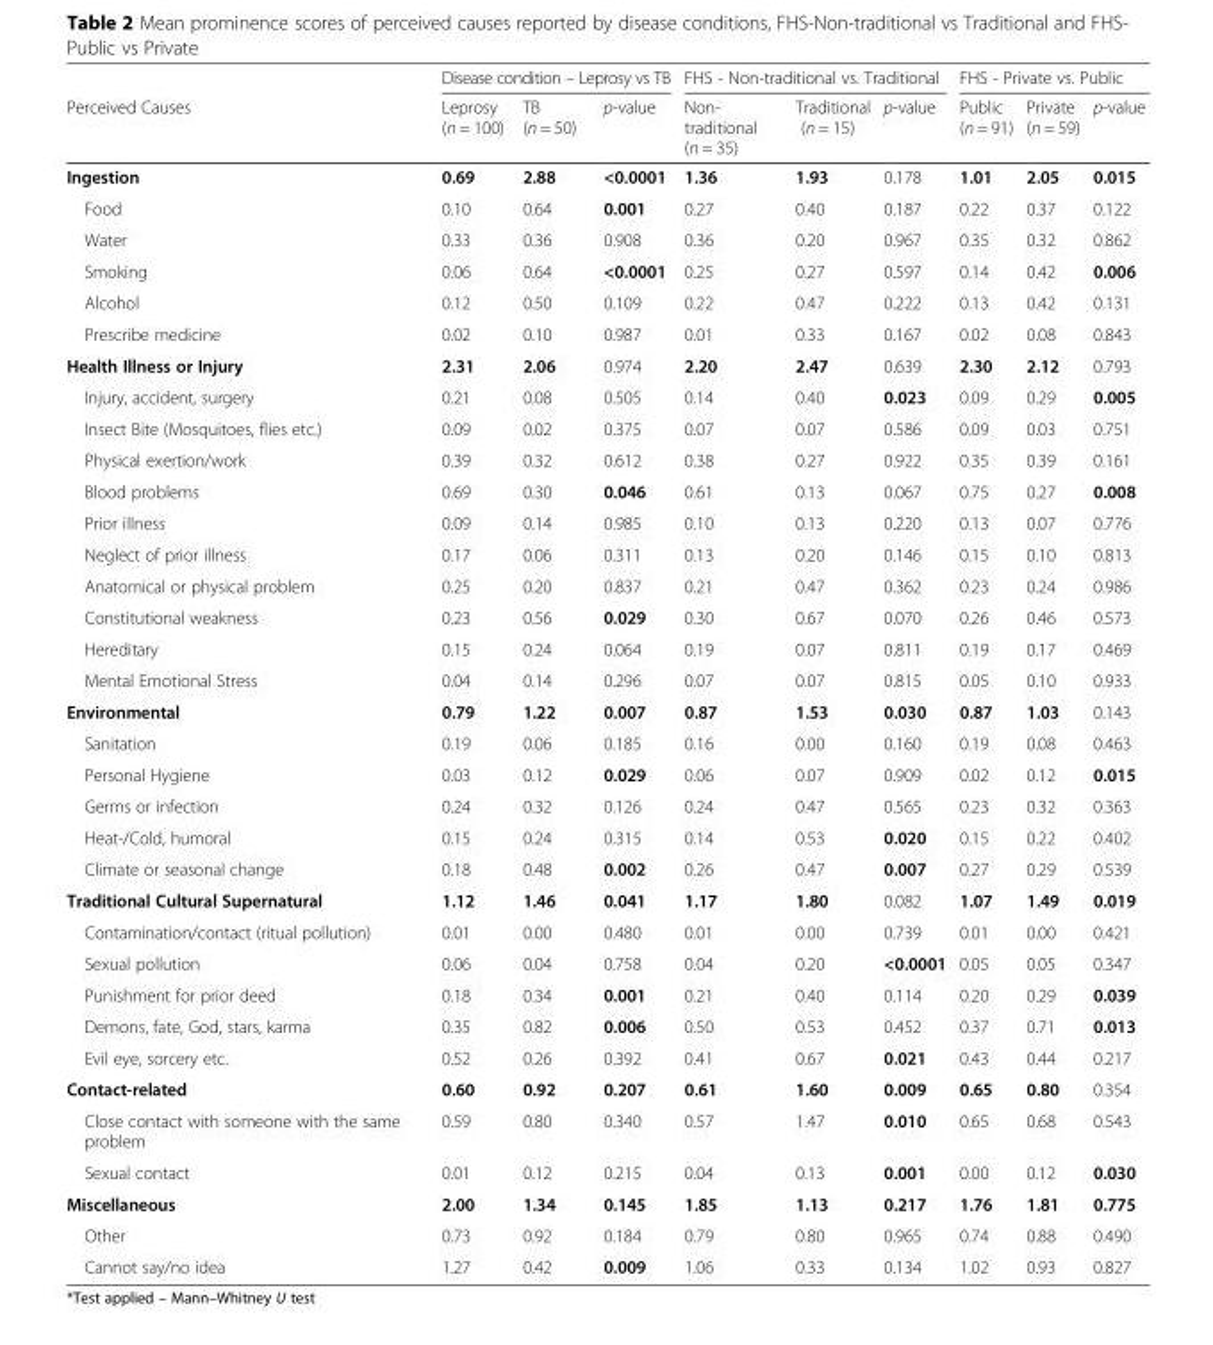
<table><thead><tr><td rowspan="2">Perceived Causes</td><td colspan="3">Disease condition – Leprosy vs TB</td><td colspan="3">FHS - Non-traditional vs. Traditional</td><td colspan="3">FHS - Private vs. Public</td></tr><tr><td>Leprosy (n = 100)</td><td>TB (n = 50)</td><td>p-value</td><td>Non- traditional (n = 35)</td><td>Traditional (n = 15)</td><td>p-value</td><td>Public (n = 91)</td><td>Private (n = 59)</td><td>p-value</td></tr></thead><tbody><tr><td>Ingestion</td><td>0.69</td><td>2.88</td><td>&lt;0.0001</td><td>1.36</td><td>1.93</td><td>0.178</td><td>1.01</td><td>2.05</td><td>0.015</td></tr><tr><td>Food</td><td>0.10</td><td>0.64</td><td>0.001</td><td>0.27</td><td>0.40</td><td>0.187</td><td>0.22</td><td>0.37</td><td>0.122</td></tr><tr><td>Water</td><td>0.33</td><td>0.36</td><td>0.908</td><td>0.36</td><td>0.20</td><td>0.967</td><td>0.35</td><td>0.32</td><td>0.862</td></tr><tr><td>Smoking</td><td>0.06</td><td>0.64</td><td>&lt;0.0001</td><td>0.25</td><td>0.27</td><td>0.597</td><td>0.14</td><td>0.42</td><td>0.006</td></tr><tr><td>Alcohol</td><td>0.12</td><td>0.50</td><td>0.109</td><td>0.22</td><td>0.47</td><td>0.222</td><td>0.13</td><td>0.42</td><td>0.131</td></tr><tr><td>Prescribe medicine</td><td>0.02</td><td>0.10</td><td>0.987</td><td>0.01</td><td>0.33</td><td>0.167</td><td>0.02</td><td>0.08</td><td>0.843</td></tr><tr><td>Health Illness or Injury</td><td>2.31</td><td>2.06</td><td>0.974</td><td>2.20</td><td>2.47</td><td>0.639</td><td>2.30</td><td>2.12</td><td>0.793</td></tr><tr><td>Injury, accident, surgery</td><td>0.21</td><td>0.08</td><td>0.505</td><td>0.14</td><td>0.40</td><td>0.023</td><td>0.09</td><td>0.29</td><td>0.005</td></tr><tr><td>Insect Bite (Mosquitoes, flies etc.)</td><td>0.09</td><td>0.02</td><td>0.375</td><td>0.07</td><td>0.07</td><td>0.586</td><td>0.09</td><td>0.03</td><td>0.751</td></tr><tr><td>Physical exertion/work</td><td>0.39</td><td>0.32</td><td>0.612</td><td>0.38</td><td>0.27</td><td>0.922</td><td>0.35</td><td>0.39</td><td>0.161</td></tr><tr><td>Blood problems</td><td>0.69</td><td>0.30</td><td>0.046</td><td>0.61</td><td>0.13</td><td>0.067</td><td>0.75</td><td>0.27</td><td>0.008</td></tr><tr><td>Prior illness</td><td>0.09</td><td>0.14</td><td>0.985</td><td>0.10</td><td>0.13</td><td>0.220</td><td>0.13</td><td>0.07</td><td>0.776</td></tr><tr><td>Neglect of prior illness</td><td>0.17</td><td>0.06</td><td>0.311</td><td>0.13</td><td>0.20</td><td>0.146</td><td>0.15</td><td>0.10</td><td>0.813</td></tr><tr><td>Anatomical or physical problem</td><td>0.25</td><td>0.20</td><td>0.837</td><td>0.21</td><td>0.47</td><td>0.362</td><td>0.23</td><td>0.24</td><td>0.986</td></tr><tr><td>Constitutional weakness</td><td>0.23</td><td>0.56</td><td>0.029</td><td>0.30</td><td>0.67</td><td>0.070</td><td>0.26</td><td>0.46</td><td>0.573</td></tr><tr><td>Hereditary</td><td>0.15</td><td>0.24</td><td>0.064</td><td>0.19</td><td>0.07</td><td>0.811</td><td>0.19</td><td>0.17</td><td>0.469</td></tr><tr><td>Mental Emotional Stress</td><td>0.04</td><td>0.14</td><td>0.296</td><td>0.07</td><td>0.07</td><td>0.815</td><td>0.05</td><td>0.10</td><td>0.933</td></tr><tr><td>Environmental</td><td>0.79</td><td>1.22</td><td>0.007</td><td>0.87</td><td>1.53</td><td>0.030</td><td>0.87</td><td>1.03</td><td>0.143</td></tr><tr><td>Sanitation</td><td>0.19</td><td>0.06</td><td>0.185</td><td>0.16</td><td>0.00</td><td>0.160</td><td>0.19</td><td>0.08</td><td>0.463</td></tr><tr><td>Personal Hygiene</td><td>0.03</td><td>0.12</td><td>0.029</td><td>0.06</td><td>0.07</td><td>0.909</td><td>0.02</td><td>0.12</td><td>0.015</td></tr><tr><td>Germs or infection</td><td>0.24</td><td>0.32</td><td>0.126</td><td>0.24</td><td>0.47</td><td>0.565</td><td>0.23</td><td>0.32</td><td>0.363</td></tr><tr><td>Heat-/Cold, humoral</td><td>0.15</td><td>0.24</td><td>0.315</td><td>0.14</td><td>0.53</td><td>0.020</td><td>0.15</td><td>0.22</td><td>0.402</td></tr><tr><td>Climate or seasonal change</td><td>0.18</td><td>0.48</td><td>0.002</td><td>0.26</td><td>0.47</td><td>0.007</td><td>0.27</td><td>0.29</td><td>0.539</td></tr><tr><td>Traditional Cultural Supernatural</td><td>1.12</td><td>1.46</td><td>0.041</td><td>1.17</td><td>1.80</td><td>0.082</td><td>1.07</td><td>1.49</td><td>0.019</td></tr><tr><td>Contamination/contact (ritual pollution)</td><td>0.01</td><td>0.00</td><td>0.480</td><td>0.01</td><td>0.00</td><td>0.739</td><td>0.01</td><td>0.00</td><td>0.421</td></tr><tr><td>Sexual pollution</td><td>0.06</td><td>0.04</td><td>0.758</td><td>0.04</td><td>0.20</td><td>&lt;0.0001</td><td>0.05</td><td>0.05</td><td>0.347</td></tr><tr><td>Punishment for prior deed</td><td>0.18</td><td>0.34</td><td>0.001</td><td>0.21</td><td>0.40</td><td>0.114</td><td>0.20</td><td>0.29</td><td>0.039</td></tr><tr><td>Demons, fate, God, stars, karma</td><td>0.35</td><td>0.82</td><td>0.006</td><td>0.50</td><td>0.53</td><td>0.452</td><td>0.37</td><td>0.71</td><td>0.013</td></tr><tr><td>Evil eye, sorcery etc.</td><td>0.52</td><td>0.26</td><td>0.392</td><td>0.41</td><td>0.67</td><td>0.021</td><td>0.43</td><td>0.44</td><td>0.217</td></tr><tr><td>Contact-related</td><td>0.60</td><td>0.92</td><td>0.207</td><td>0.61</td><td>1.60</td><td>0.009</td><td>0.65</td><td>0.80</td><td>0.354</td></tr><tr><td>Close contact with someone with the same problem</td><td>0.59</td><td>0.80</td><td>0.340</td><td>0.57</td><td>1.47</td><td>0.010</td><td>0.65</td><td>0.68</td><td>0.543</td></tr><tr><td>Sexual contact</td><td>0.01</td><td>0.12</td><td>0.215</td><td>0.04</td><td>0.13</td><td>0.001</td><td>0.00</td><td>0.12</td><td>0.030</td></tr><tr><td>Miscellaneous</td><td>2.00</td><td>1.34</td><td>0.145</td><td>1.85</td><td>1.13</td><td>0.217</td><td>1.76</td><td>1.81</td><td>0.775</td></tr><tr><td>Other</td><td>0.73</td><td>0.92</td><td>0.184</td><td>0.79</td><td>0.80</td><td>0.965</td><td>0.74</td><td>0.88</td><td>0.490</td></tr><tr><td>Cannot say/no idea</td><td>1.27</td><td>0.42</td><td>0.009</td><td>1.06</td><td>0.33</td><td>0.134</td><td>1.02</td><td>0.93</td><td>0.827</td></tr></tbody></table>